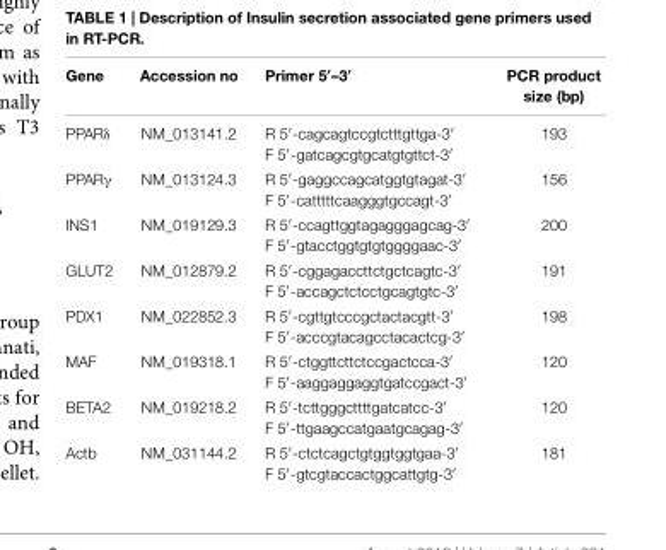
<table><thead><tr><td>Gene</td><td>Accession no</td><td>Primer 5′–3′</td><td>PCR product size (bp)</td></tr></thead><tbody><tr><td>PPARδ</td><td>NM_013141.2</td><td>R 5′-cagcagtccgtctttgttga-3′ F 5′-gatcagcgtgcatgtgttct-3′</td><td>193</td></tr><tr><td>PPARγ</td><td>NM_013124.3</td><td>R 5′-gaggccagcatggtgtagat-3′ F 5′-catttttcaagggtgccagt-3′</td><td>156</td></tr><tr><td>INS1</td><td>NM_019129.3</td><td>R 5′-ccagttggtagagggagcag-3′ F 5′-gtacctggtgtgtggggaac-3′</td><td>200</td></tr><tr><td>GLUT2</td><td>NM_012879.2</td><td>R 5′-cggagaccttctgctcagtc-3′ F 5′-accagctctcctgcagtgtc-3′</td><td>191</td></tr><tr><td>PDX1</td><td>NM_022852.3</td><td>R 5′-cgttgtcccgctactacgtt-3′ F 5′-acccgtacagcctacactcg-3′</td><td>198</td></tr><tr><td>MAF</td><td>NM_019318.1</td><td>R 5′-ctggttcttctccgactcca-3′ F 5′-aaggaggaggtgatccgact-3′</td><td>120</td></tr><tr><td>BETA2</td><td>NM_019218.2</td><td>R 5′-tcttgggcttttgatcatcc-3′ F 5′-ttgaagccatgaatgcagag-3′</td><td>120</td></tr><tr><td>Actb</td><td>NM_031144.2</td><td>R 5′-ctctcagctgtggtggtgaa-3′ F 5′-gtcgtaccactggcattgtg-3′</td><td>181</td></tr></tbody></table>